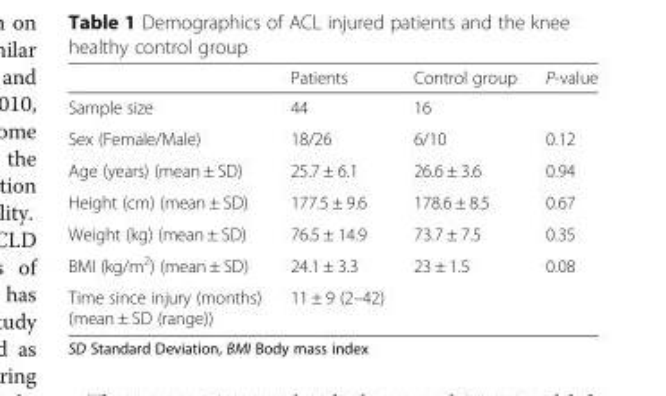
<table><thead><tr><td></td><td>Patients</td><td>Control group</td><td>P-value</td></tr></thead><tbody><tr><td>Sample size</td><td>44</td><td>16</td><td></td></tr><tr><td>Sex (Female/Male)</td><td>18/26</td><td>6/10</td><td>0.12</td></tr><tr><td>Age (years) (mean ± SD)</td><td>25.7 ± 6.1</td><td>26.6 ± 3.6</td><td>0.94</td></tr><tr><td>Height (cm) (mean ± SD)</td><td>177.5 ± 9.6</td><td>178.6 ± 8.5</td><td>0.67</td></tr><tr><td>Weight (kg) (mean ± SD)</td><td>76.5 ± 14.9</td><td>73.7 ± 7.5</td><td>0.35</td></tr><tr><td>BMI (kg/m<sup>2</sup>) (mean ± SD)</td><td>24.1 ± 3.3</td><td>23 ± 1.5</td><td>0.08</td></tr><tr><td>Time since injury (months) (mean ± SD (range))</td><td>11 ± 9 (2–42)</td><td></td><td></td></tr></tbody></table>